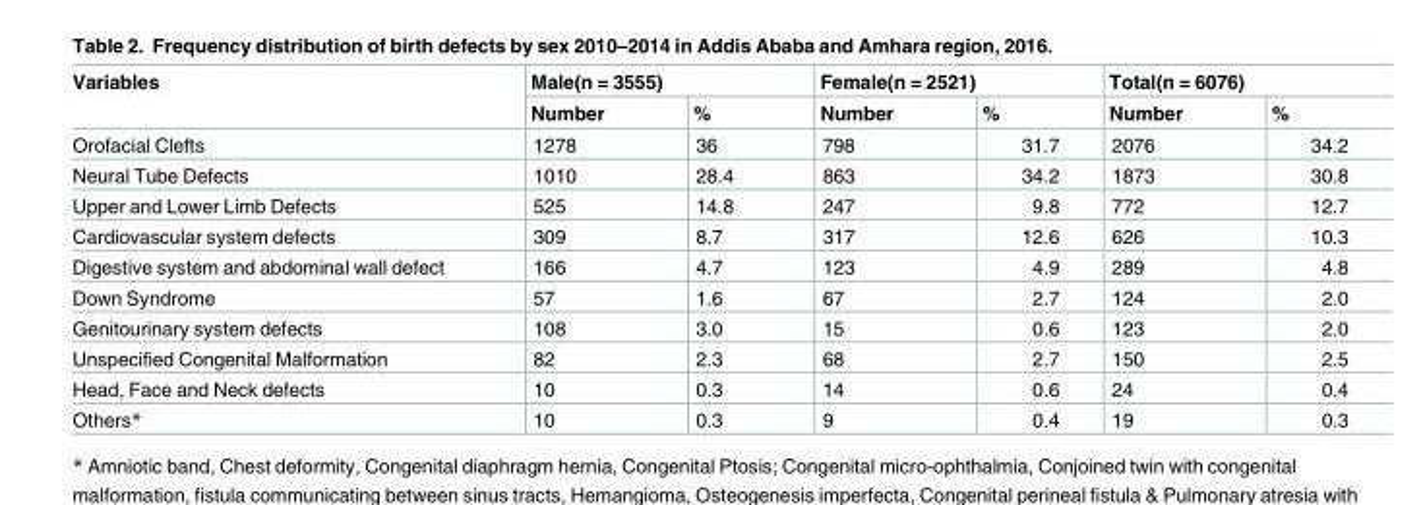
<table><thead><tr><td rowspan="2">Variables</td><td colspan="2">Male(n = 3555)</td><td colspan="2">Female(n = 2521)</td><td colspan="2">Total(n = 6076)</td></tr><tr><td>Number</td><td>%</td><td>Number</td><td>%</td><td>Number</td><td>%</td></tr></thead><tbody><tr><td>Orofacial Clefts</td><td>1278</td><td>36</td><td>798</td><td>31.7</td><td>2076</td><td>34.2</td></tr><tr><td>Neural Tube Defects</td><td>1010</td><td>28.4</td><td>863</td><td>34.2</td><td>1873</td><td>30.8</td></tr><tr><td>Upper and Lower Limb Defects</td><td>525</td><td>14.8</td><td>247</td><td>9.8</td><td>772</td><td>12.7</td></tr><tr><td>Cardiovascular system defects</td><td>309</td><td>8.7</td><td>317</td><td>12.6</td><td>626</td><td>10.3</td></tr><tr><td>Digestive system and abdominal wall defect</td><td>166</td><td>4.7</td><td>123</td><td>4.9</td><td>289</td><td>4.8</td></tr><tr><td>Down Syndrome</td><td>57</td><td>1.6</td><td>67</td><td>2.7</td><td>124</td><td>2.0</td></tr><tr><td>Genitourinary system defects</td><td>108</td><td>3.0</td><td>15</td><td>0.6</td><td>123</td><td>2.0</td></tr><tr><td>Unspecified Congenital Malformation</td><td>82</td><td>2.3</td><td>68</td><td>2.7</td><td>150</td><td>2.5</td></tr><tr><td>Head, Face and Neck defects</td><td>10</td><td>0.3</td><td>14</td><td>0.6</td><td>24</td><td>0.4</td></tr><tr><td>Others*</td><td>10</td><td>0.3</td><td>9</td><td>0.4</td><td>19</td><td>0.3</td></tr></tbody></table>